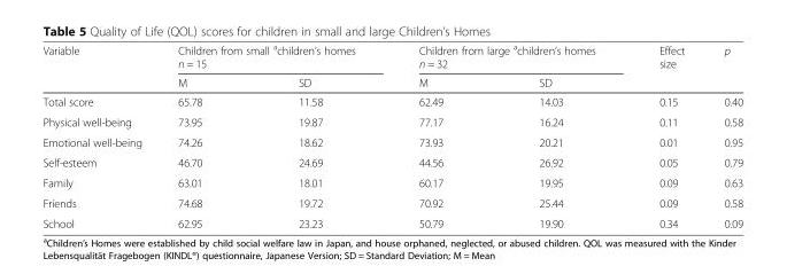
<table><thead><tr><td rowspan="2">Variable</td><td colspan="2">Children from small <sup>a</sup>children’s homes n = 15</td><td colspan="2">Children from large <sup>a</sup>children’s homes n = 32</td><td rowspan="2">Effect size</td><td rowspan="2">p</td></tr><tr><td>M</td><td>SD</td><td>M</td><td>SD</td></tr></thead><tbody><tr><td>Total score</td><td>65.78</td><td>11.58</td><td>62.49</td><td>14.03</td><td>0.15</td><td>0.40</td></tr><tr><td>Physical well-being</td><td>73.95</td><td>19.87</td><td>77.17</td><td>16.24</td><td>0.11</td><td>0.58</td></tr><tr><td>Emotional well-being</td><td>74.26</td><td>18.62</td><td>73.93</td><td>20.21</td><td>0.01</td><td>0.95</td></tr><tr><td>Self-esteem</td><td>46.70</td><td>24.69</td><td>44.56</td><td>26.92</td><td>0.05</td><td>0.79</td></tr><tr><td>Family</td><td>63.01</td><td>18.01</td><td>60.17</td><td>19.95</td><td>0.09</td><td>0.63</td></tr><tr><td>Friends</td><td>74.68</td><td>19.72</td><td>70.92</td><td>25.44</td><td>0.09</td><td>0.58</td></tr><tr><td>School</td><td>62.95</td><td>23.23</td><td>50.79</td><td>19.90</td><td>0.34</td><td>0.09</td></tr></tbody></table>